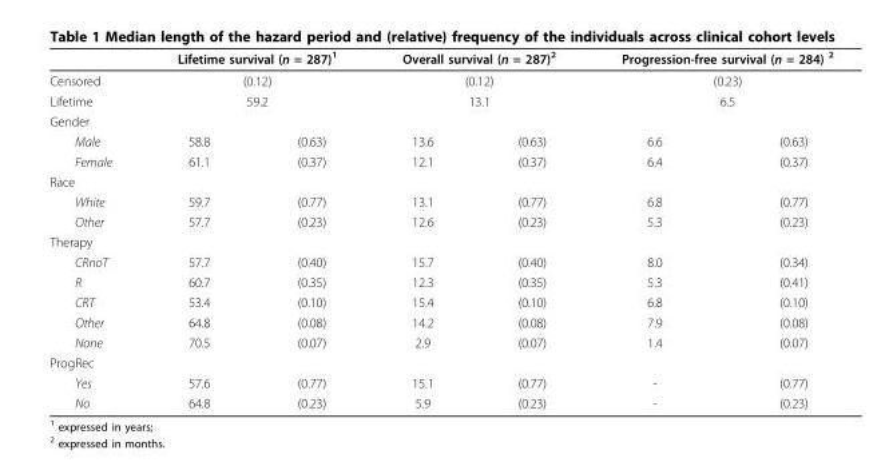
<table><thead><tr><td rowspan="4">Censored Lifetime Gender</td><td rowspan="3" colspan="2">Lifetime survival (n = 287)<sup>1</sup> (0.12) 59.2</td><td rowspan="3" colspan="2">Overall survival (n = 287)<sup>2</sup> (0.12) 13.1</td><td rowspan="3" colspan="2">Progression-free survival (n = 284) 2 (0.23) 6.5</td></tr><tr></tr><tr></tr><tr><td></td><td></td><td></td><td></td><td></td><td></td></tr></thead><tbody><tr><td>Male</td><td>58.8</td><td>(0.63)</td><td>13.6</td><td>(0.63)</td><td>6.6</td><td>(0.63)</td></tr><tr><td>Female</td><td>61.1</td><td>(0.37)</td><td>12.1</td><td>(0.37)</td><td>6.4</td><td>(0.37)</td></tr><tr><td colspan="7">Race</td></tr><tr><td>White</td><td>59.7</td><td>(0.77)</td><td>13.1</td><td>(0.77)</td><td>6.8</td><td>(0.77)</td></tr><tr><td>Other</td><td>57.7</td><td>(0.23)</td><td>12.6</td><td>(0.23)</td><td>5.3</td><td>(0.23)</td></tr><tr><td colspan="7">Therapy</td></tr><tr><td>CRnoT</td><td>57.7</td><td>(0.40)</td><td>15.7</td><td>(0.40)</td><td>8.0</td><td>(0.34)</td></tr><tr><td>R</td><td>60.7</td><td>(0.35)</td><td>12.3</td><td>(0.35)</td><td>5.3</td><td>(0.41)</td></tr><tr><td>CRT</td><td>53.4</td><td>(0.10)</td><td>15.4</td><td>(0.10)</td><td>6.8</td><td>(0.10)</td></tr><tr><td>Other</td><td>64.8</td><td>(0.08)</td><td>14.2</td><td>(0.08)</td><td>7.9</td><td>(0.08)</td></tr><tr><td>None</td><td>70.5</td><td>(0.07)</td><td>2.9</td><td>(0.07)</td><td>1.4</td><td>(0.07)</td></tr><tr><td colspan="7">ProgRec</td></tr><tr><td>Yes</td><td>57.6</td><td>(0.77)</td><td>15.1</td><td>(0.77)</td><td>-</td><td>(0.77)</td></tr><tr><td>No</td><td>64.8</td><td>(0.23)</td><td>5.9</td><td>(0.23)</td><td>-</td><td>(0.23)</td></tr></tbody></table>